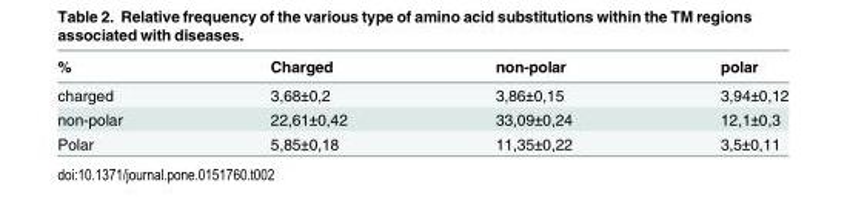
<table><thead><tr><td>%</td><td>Charged</td><td>non-polar</td><td>polar</td></tr></thead><tbody><tr><td>charged</td><td>3,68±0,2</td><td>3,86±0,15</td><td>3,94±0,12</td></tr><tr><td>non-polar</td><td>22,61±0,42</td><td>33,09±0,24</td><td>12,1±0,3</td></tr><tr><td>Polar</td><td>5,85±0,18</td><td>11,35±0,22</td><td>3,5±0,11</td></tr></tbody></table>